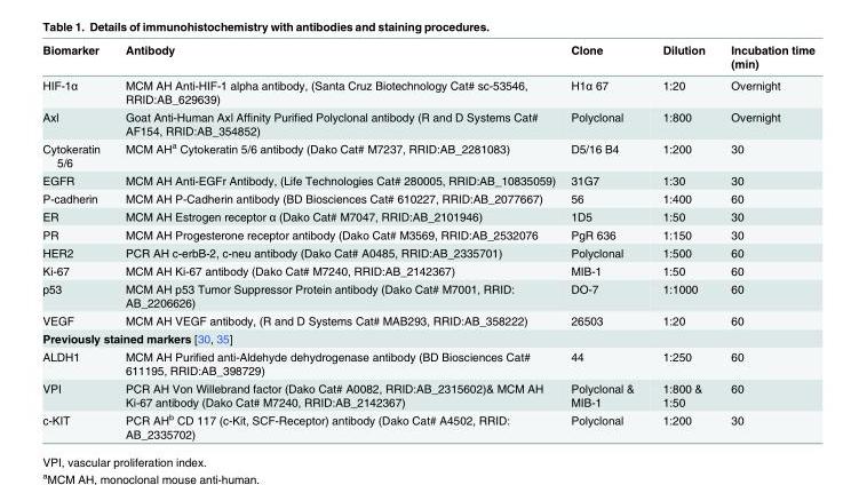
<table><thead><tr><td>Biomarker</td><td>Antibody</td><td>Clone</td><td>Dilution</td><td>Incubation time (min)</td></tr></thead><tbody><tr><td>HIF-1α</td><td>MCM AH Anti-HIF-1 alpha antibody, (Santa Cruz Biotechnology Cat# sc-53546, RRID:AB_629639)</td><td>H1α 67</td><td>1:20</td><td>Overnight</td></tr><tr><td>Axl</td><td>Goat Anti-Human Axl Affinity Purified Polyclonal antibody (R and D Systems Cat# AF154, RRID:AB_354852)</td><td>Polyclonal</td><td>1:800</td><td>Overnight</td></tr><tr><td>Cytokeratin 5/6</td><td>MCM AH<sup>a</sup> Cytokeratin 5/6 antibody (Dako Cat# M7237, RRID:AB_2281083)</td><td>D5/16 B4</td><td>1:200</td><td>30</td></tr><tr><td>EGFR</td><td>MCM AH Anti-EGFr Antibody, (Life Technologies Cat# 280005, RRID:AB_10835059)</td><td>31G7</td><td>1:30</td><td>30</td></tr><tr><td>P-cadherin</td><td>MCM AH P-Cadherin antibody (BD Biosciences Cat# 610227, RRID:AB_2077667)</td><td>56</td><td>1:400</td><td>60</td></tr><tr><td>ER</td><td>MCM AH Estrogen receptor α (Dako Cat# M7047, RRID:AB_2101946)</td><td>1D5</td><td>1:50</td><td>30</td></tr><tr><td>PR</td><td>MCM AH Progesterone receptor antibody (Dako Cat# M3569, RRID:AB_2532076</td><td>PgR 636</td><td>1:150</td><td>30</td></tr><tr><td>HER2</td><td>PCR AH c-erbB-2, c-neu antibody (Dako Cat# A0485, RRID:AB_2335701)</td><td>Polyclonal</td><td>1:500</td><td>60</td></tr><tr><td>Ki-67</td><td>MCM AH Ki-67 antibody (Dako Cat# M7240, RRID:AB_2142367)</td><td>MIB-1</td><td>1:50</td><td>60</td></tr><tr><td>p53</td><td>MCM AH p53 Tumor Suppressor Protein antibody (Dako Cat# M7001, RRID: AB_2206626)</td><td>DO-7</td><td>1:1000</td><td>60</td></tr><tr><td>VEGF</td><td>MCM AH VEGF antibody, (R and D Systems Cat# MAB293, RRID:AB_358222)</td><td>26503</td><td>1:20</td><td>60</td></tr><tr><td colspan="5">Previously stained markers [30, 35]</td></tr><tr><td>ALDH1</td><td>MCM AH Purified anti-Aldehyde dehydrogenase antibody (BD Biosciences Cat# 611195, RRID:AB_398729)</td><td>44</td><td>1:250</td><td>60</td></tr><tr><td>VPI</td><td>PCR AH Von Willebrand factor (Dako Cat# A0082, RRID:AB_2315602)&amp; MCM AH Ki-67 antibody (Dako Cat# M7240, RRID:AB_2142367)</td><td>Polyclonal &amp; MIB-1</td><td>1:800 &amp; 1:50</td><td>60</td></tr><tr><td>c-KIT</td><td>PCR AH<sup>b</sup> CD 117 (c-Kit, SCF-Receptor) antibody (Dako Cat# A4502, RRID: AB_2335702)</td><td>Polyclonal</td><td>1:200</td><td>30</td></tr></tbody></table>